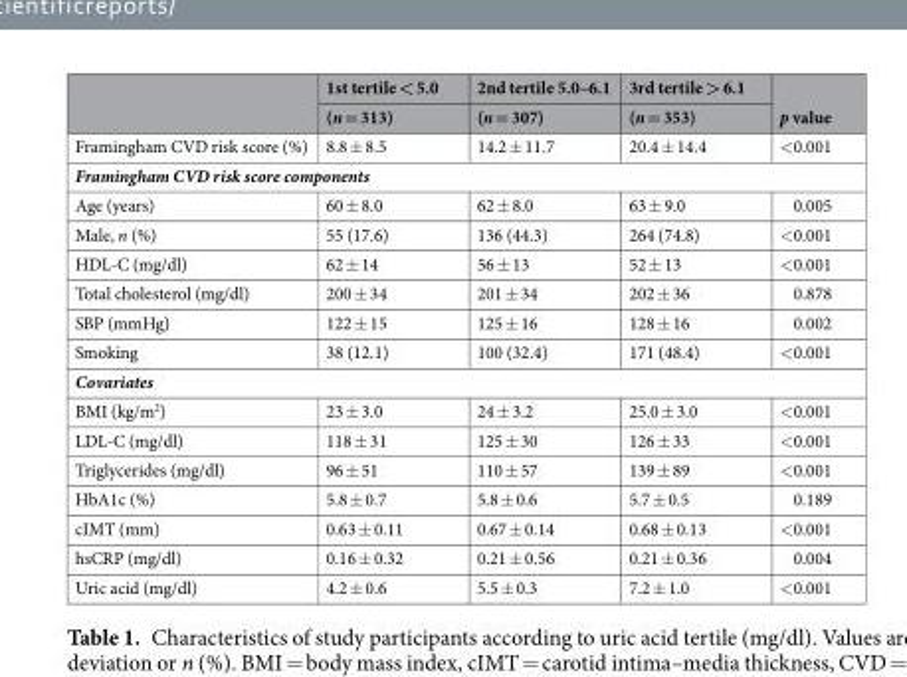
<table><thead><tr><td rowspan="2"></td><td rowspan="2">1st tertile &lt; 5.0 (n = 313)</td><td rowspan="2">2nd tertile 5.0–6.1 (n = 307)</td><td rowspan="2">3rd tertile &gt; 6.1 (n = 353)</td><td rowspan="2">p value</td></tr><tr></tr></thead><tbody><tr><td>Framingham CVD risk score (%)</td><td>8.8 ± 8.5</td><td>14.2 ± 11.7</td><td>20.4 ± 14.4</td><td>&lt;0.001</td></tr><tr><td colspan="5">Framingham CVD risk score components</td></tr><tr><td>Age (years)</td><td>60 ± 8.0</td><td>62 ± 8.0</td><td>63 ± 9.0</td><td>0.005</td></tr><tr><td>Male, n (%)</td><td>55 (17.6)</td><td>136 (44.3)</td><td>264 (74.8)</td><td>&lt;0.001</td></tr><tr><td>HDL-C (mg/dl)</td><td>62 ± 14</td><td>56 ± 13</td><td>52 ± 13</td><td>&lt;0.001</td></tr><tr><td>Total cholesterol (mg/dl)</td><td>200 ± 34</td><td>201 ± 34</td><td>202 ± 36</td><td>0.878</td></tr><tr><td>SBP (mmHg)</td><td>122 ± 15</td><td>125 ± 16</td><td>128 ± 16</td><td>0.002</td></tr><tr><td>Smoking</td><td>38 (12.1)</td><td>100 (32.4)</td><td>171 (48.4)</td><td>&lt;0.001</td></tr><tr><td colspan="5">Covariates</td></tr><tr><td>BMI (kg/m<sup>2</sup>)</td><td>23 ± 3.0</td><td>24 ± 3.2</td><td>25.0 ± 3.0</td><td>&lt;0.001</td></tr><tr><td>LDL-C (mg/dl)</td><td>118 ± 31</td><td>125 ± 30</td><td>126 ± 33</td><td>&lt;0.001</td></tr><tr><td>Triglycerides (mg/dl)</td><td>96 ± 51</td><td>110 ± 57</td><td>139 ± 89</td><td>&lt;0.001</td></tr><tr><td>HbA1c (%)</td><td>5.8 ± 0.7</td><td>5.8 ± 0.6</td><td>5.7 ± 0.5</td><td>0.189</td></tr><tr><td>cIMT (mm)</td><td>0.63 ± 0.11</td><td>0.67 ± 0.14</td><td>0.68 ± 0.13</td><td>&lt;0.001</td></tr><tr><td>hsCRP (mg/dl)</td><td>0.16 ± 0.32</td><td>0.21 ± 0.56</td><td>0.21 ± 0.36</td><td>0.004</td></tr><tr><td>Uric acid (mg/dl)</td><td>4.2 ± 0.6</td><td>5.5 ± 0.3</td><td>7.2 ± 1.0</td><td>&lt;0.001</td></tr></tbody></table>